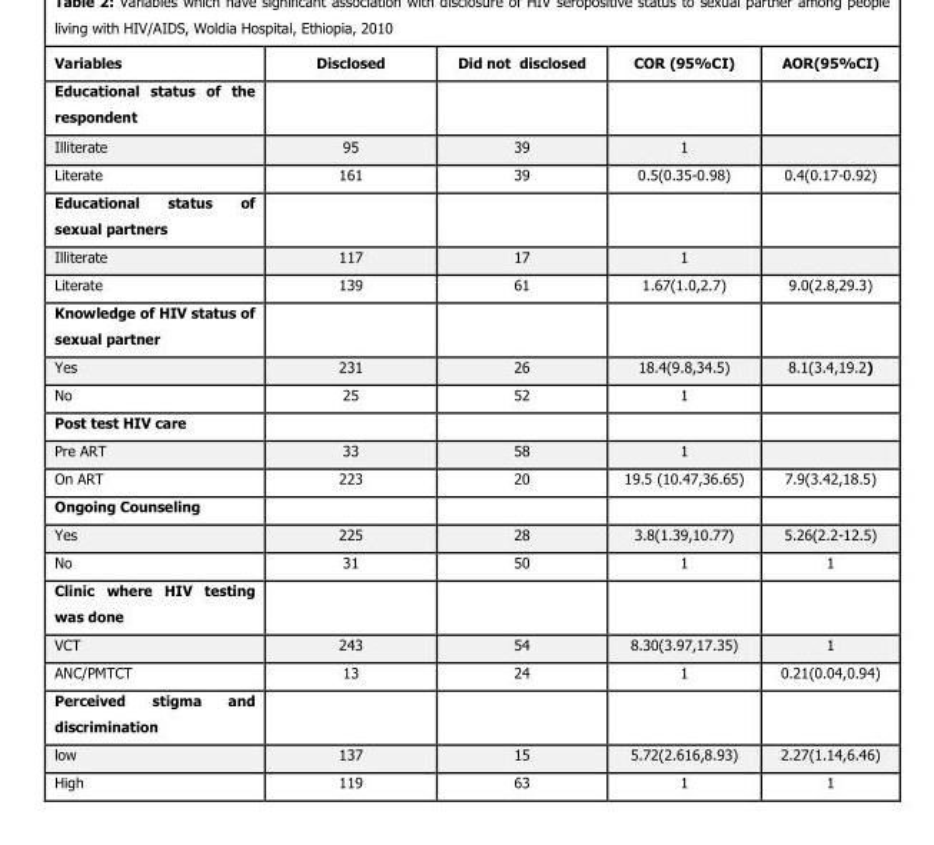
<table><thead><tr><td>Variables</td><td>Disclosed</td><td>Did not disclosed</td><td>COR (95%CI)</td><td>AOR(95%CI)</td></tr></thead><tbody><tr><td colspan="5">Educational status of the respondent</td></tr><tr><td>Illiterate</td><td>95</td><td>39</td><td>1</td><td></td></tr><tr><td>Literate</td><td>161</td><td>39</td><td>0.5(0.35-0.98)</td><td>0.4(0.17-0.92)</td></tr><tr><td colspan="5">Educational status of sexual partners</td></tr><tr><td>Illiterate</td><td>117</td><td>17</td><td>1</td><td></td></tr><tr><td>Literate</td><td>139</td><td>61</td><td>1.67(1.0,2.7)</td><td>9.0(2.8,29.3)</td></tr><tr><td colspan="5">Knowledge of HIV status of sexual partner</td></tr><tr><td>Yes</td><td>231</td><td>26</td><td>18.4(9.8,34.5)</td><td>8.1(3.4,19.2)</td></tr><tr><td>No</td><td>25</td><td>52</td><td>1</td><td></td></tr><tr><td colspan="5">Post test HIV care</td></tr><tr><td>Pre ART</td><td>33</td><td>58</td><td>1</td><td></td></tr><tr><td>On ART</td><td>223</td><td>20</td><td>19.5 (10.47,36.65)</td><td>7.9(3.42,18.5)</td></tr><tr><td colspan="5">Ongoing Counseling</td></tr><tr><td>Yes</td><td>225</td><td>28</td><td>3.8(1.39,10.77)</td><td>5.26(2.2-12.5)</td></tr><tr><td>No</td><td>31</td><td>50</td><td>1</td><td>1</td></tr><tr><td colspan="5">Clinic where HIV testing was done</td></tr><tr><td>VCT</td><td>243</td><td>54</td><td>8.30(3.97,17.35)</td><td>1</td></tr><tr><td>ANC/PMTCT</td><td>13</td><td>24</td><td>1</td><td>0.21(0.04,0.94)</td></tr><tr><td colspan="5">Perceived stigma and discrimination</td></tr><tr><td>low</td><td>137</td><td>15</td><td>5.72(2.616,8.93)</td><td>2.27(1.14,6.46)</td></tr><tr><td>High</td><td>119</td><td>63</td><td>1</td><td>1</td></tr></tbody></table>